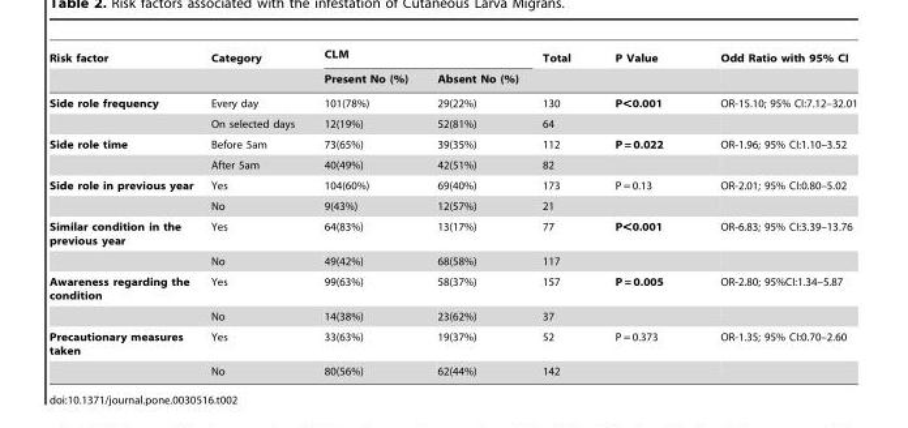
<table><thead><tr><td rowspan="2">Risk factor</td><td rowspan="2">Category</td><td colspan="2">CLM</td><td rowspan="2">Total</td><td rowspan="2">P Value</td><td rowspan="2">Odd Ratio with 95% CI</td></tr><tr><td>Present No (%)</td><td>Absent No (%)</td></tr></thead><tbody><tr><td rowspan="2">Side role frequency</td><td>Every day</td><td>101(78%)</td><td>29(22%)</td><td>130</td><td>P&lt;0.001</td><td>OR-15.10; 95% CI:7.12–32.01</td></tr><tr><td>On selected days</td><td>12(19%)</td><td>52(81%)</td><td>64</td><td></td><td></td></tr><tr><td rowspan="2">Side role time</td><td>Before 5am</td><td>73(65%)</td><td>39(35%)</td><td>112</td><td>P = 0.022</td><td>OR-1.96; 95% CI:1.10–3.52</td></tr><tr><td>After 5am</td><td>40(49%)</td><td>42(51%)</td><td>82</td><td></td><td></td></tr><tr><td rowspan="2">Side role in previous year</td><td>Yes</td><td>104(60%)</td><td>69(40%)</td><td>173</td><td>P = 0.13</td><td>OR-2.01; 95% CI:0.80–5.02</td></tr><tr><td>No</td><td>9(43%)</td><td>12(57%)</td><td>21</td><td></td><td></td></tr><tr><td rowspan="2">Similar condition in the previous year</td><td>Yes</td><td>64(83%)</td><td>13(17%)</td><td>77</td><td>P&lt;0.001</td><td>OR-6.83; 95% CI:3.39–13.76</td></tr><tr><td>No</td><td>49(42%)</td><td>68(58%)</td><td>117</td><td></td><td></td></tr><tr><td rowspan="2">Awareness regarding the condition</td><td>Yes</td><td>99(63%)</td><td>58(37%)</td><td>157</td><td>P = 0.005</td><td>OR-2.80; 95%CI:1.34–5.87</td></tr><tr><td>No</td><td>14(38%)</td><td>23(62%)</td><td>37</td><td></td><td></td></tr><tr><td rowspan="2">Precautionary measures taken</td><td>Yes</td><td>33(63%)</td><td>19(37%)</td><td>52</td><td>P = 0.373</td><td>OR-1.35; 95% CI:0.70–2.60</td></tr><tr><td>No</td><td>80(56%)</td><td>62(44%)</td><td>142</td><td></td><td></td></tr></tbody></table>